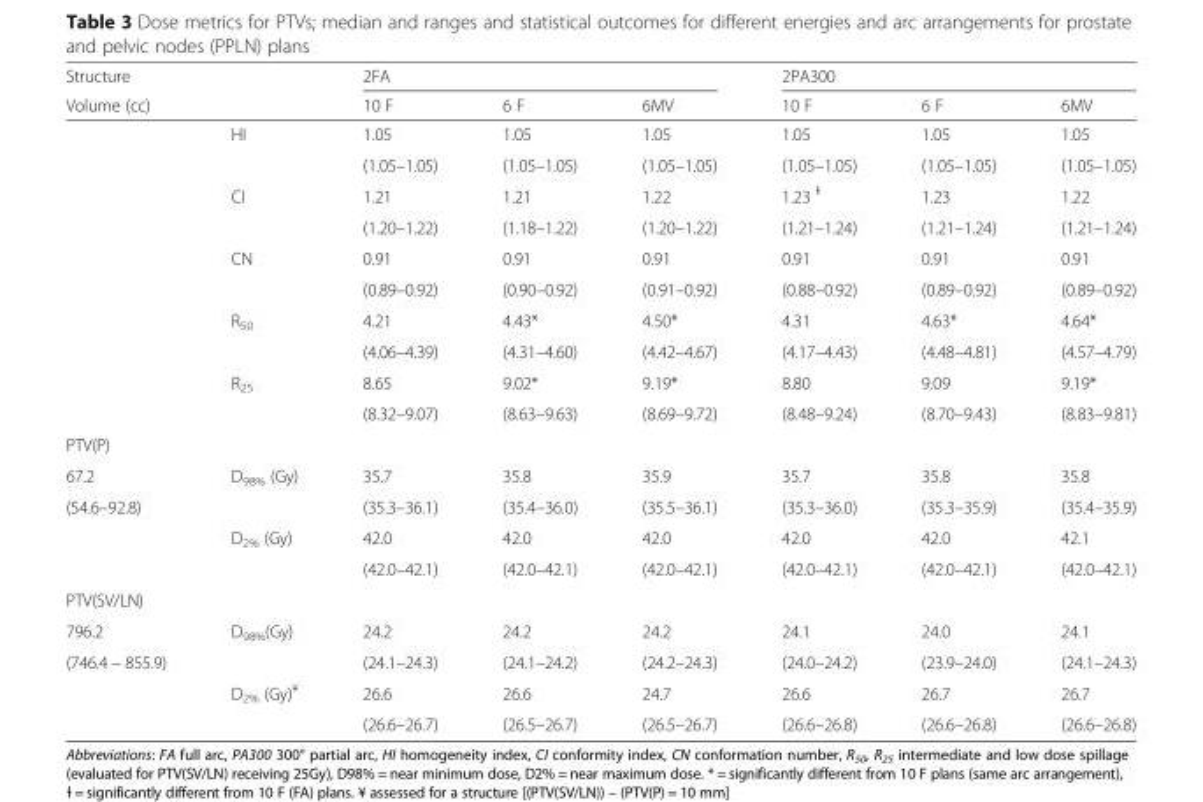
<table><thead><tr><td rowspan="2">Structure Volume (cc)</td><td rowspan="2"></td><td colspan="3">2FA</td><td colspan="3">2PA300</td></tr><tr><td>10 F</td><td>6 F</td><td>6MV</td><td>10 F</td><td>6 F</td><td>6MV</td></tr></thead><tbody><tr><td></td><td>HI</td><td>1.05</td><td>1.05</td><td>1.05</td><td>1.05</td><td>1.05</td><td>1.05</td></tr><tr><td></td><td></td><td>(1.05–1.05)</td><td>(1.05–1.05)</td><td>(1.05–1.05)</td><td>(1.05–1.05)</td><td>(1.05–1.05)</td><td>(1.05–1.05)</td></tr><tr><td></td><td>CI</td><td>1.21</td><td>1.21</td><td>1.22</td><td>1.23 <sup>ɫ</sup></td><td>1.23</td><td>1.22</td></tr><tr><td></td><td></td><td>(1.20–1.22)</td><td>(1.18–1.22)</td><td>(1.20–1.22)</td><td>(1.21–1.24)</td><td>(1.21–1.24)</td><td>(1.21–1.24)</td></tr><tr><td></td><td>CN</td><td>0.91</td><td>0.91</td><td>0.91</td><td>0.91</td><td>0.91</td><td>0.91</td></tr><tr><td></td><td></td><td>(0.89–0.92)</td><td>(0.90–0.92)</td><td>(0.91–0.92)</td><td>(0.88–0.92)</td><td>(0.89–0.92)</td><td>(0.89–0.92)</td></tr><tr><td></td><td>R<sub>50</sub></td><td>4.21</td><td>4.43*</td><td>4.50*</td><td>4.31</td><td>4.63*</td><td>4.64*</td></tr><tr><td></td><td></td><td>(4.06–4.39)</td><td>(4.31–4.60)</td><td>(4.42–4.67)</td><td>(4.17–4.43)</td><td>(4.48–4.81)</td><td>(4.57–4.79)</td></tr><tr><td></td><td>R<sub>25</sub></td><td>8.65</td><td>9.02*</td><td>9.19*</td><td>8.80</td><td>9.09</td><td>9.19*</td></tr><tr><td></td><td></td><td>(8.32–9.07)</td><td>(8.63–9.63)</td><td>(8.69–9.72)</td><td>(8.48–9.24)</td><td>(8.70–9.43)</td><td>(8.83–9.81)</td></tr><tr><td colspan="8">PTV(P)</td></tr><tr><td>67.2</td><td>D<sub>98%</sub> (Gy)</td><td>35.7</td><td>35.8</td><td>35.9</td><td>35.7</td><td>35.8</td><td>35.8</td></tr><tr><td rowspan="3">(54.6–92.8)</td><td></td><td>(35.3–36.1)</td><td>(35.4–36.0)</td><td>(35.5–36.1)</td><td>(35.3–36.0)</td><td>(35.3–35.9)</td><td>(35.4–35.9)</td></tr><tr><td>D<sub>2%</sub> (Gy)</td><td>42.0</td><td>42.0</td><td>42.0</td><td>42.0</td><td>42.0</td><td>42.1</td></tr><tr><td></td><td>(42.0–42.1)</td><td>(42.0–42.1)</td><td>(42.0–42.1)</td><td>(42.0–42.1)</td><td>(42.0–42.1)</td><td>(42.0–42.1)</td></tr><tr><td colspan="8">PTV(SV/LN)</td></tr><tr><td>796.2</td><td>D<sub>98%</sub>(Gy)</td><td>24.2</td><td>24.2</td><td>24.2</td><td>24.1</td><td>24.0</td><td>24.1</td></tr><tr><td rowspan="3">(746.4 − 855.9)</td><td></td><td>(24.1–24.3)</td><td>(24.1–24.2)</td><td>(24.2–24.3)</td><td>(24.0–24.2)</td><td>(23.9–24.0)</td><td>(24.1–24.3)</td></tr><tr><td>D<sub>2%</sub> (Gy)<sup>¥</sup></td><td>26.6</td><td>26.6</td><td>24.7</td><td>26.6</td><td>26.7</td><td>26.7</td></tr><tr><td></td><td>(26.6–26.7)</td><td>(26.5–26.7)</td><td>(26.5–26.7)</td><td>(26.6–26.8)</td><td>(26.6–26.8)</td><td>(26.6–26.8)</td></tr></tbody></table>